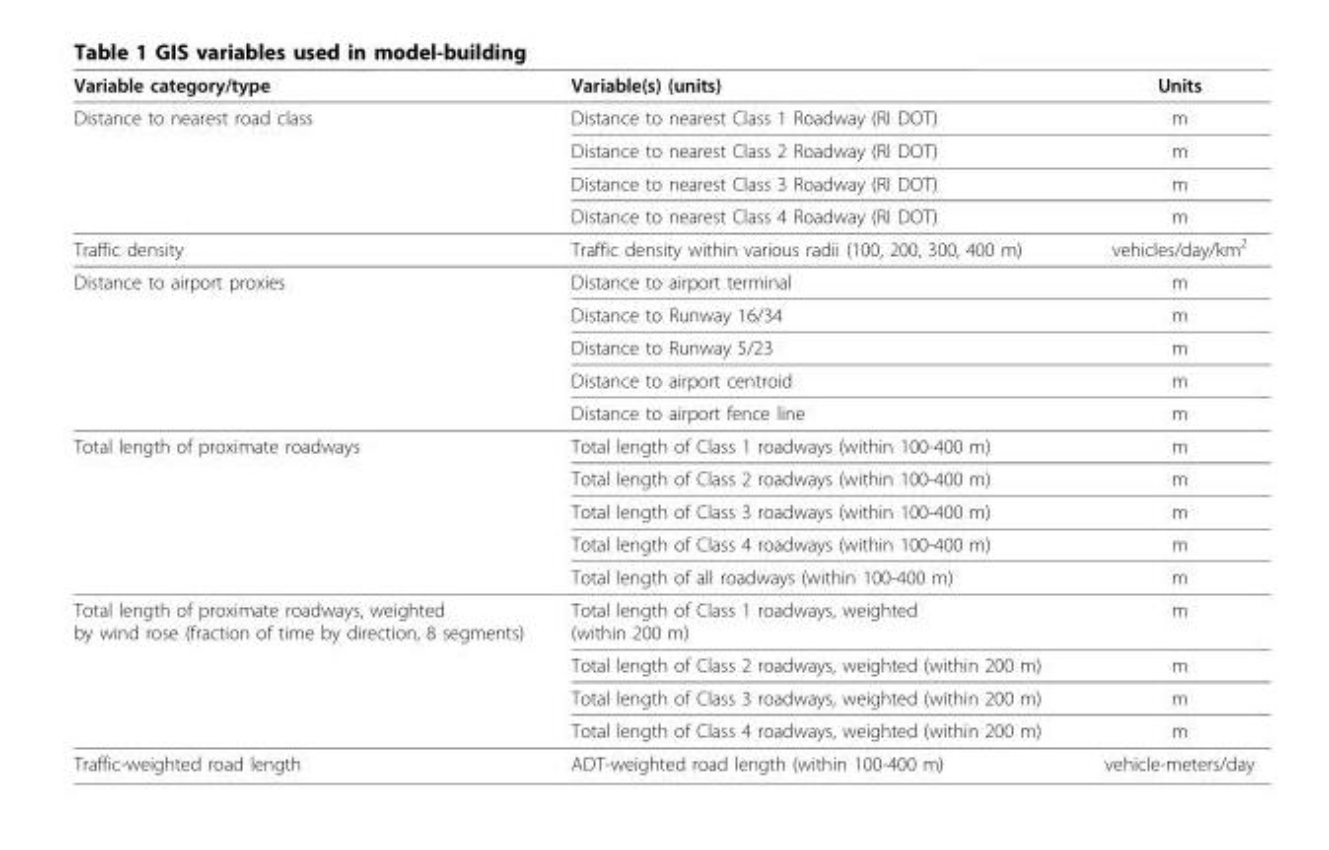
<table><thead><tr><td>Variable category/type</td><td>Variable(s) (units)</td><td>Units</td></tr></thead><tbody><tr><td rowspan="4">Distance to nearest road class</td><td>Distance to nearest Class 1 Roadway (RI DOT)</td><td>m</td></tr><tr><td>Distance to nearest Class 2 Roadway (RI DOT)</td><td>m</td></tr><tr><td>Distance to nearest Class 3 Roadway (RI DOT)</td><td>m</td></tr><tr><td>Distance to nearest Class 4 Roadway (RI DOT)</td><td>m</td></tr><tr><td>Traffic density</td><td>Traffic density within various radii (100, 200, 300, 400 m)</td><td>vehicles/day/km<sup>2</sup></td></tr><tr><td rowspan="5">Distance to airport proxies</td><td>Distance to airport terminal</td><td>m</td></tr><tr><td>Distance to Runway 16/34</td><td>m</td></tr><tr><td>Distance to Runway 5/23</td><td>m</td></tr><tr><td>Distance to airport centroid</td><td>m</td></tr><tr><td>Distance to airport fence line</td><td>m</td></tr><tr><td rowspan="5">Total length of proximate roadways</td><td>Total length of Class 1 roadways (within 100-400 m)</td><td>m</td></tr><tr><td>Total length of Class 2 roadways (within 100-400 m)</td><td>m</td></tr><tr><td>Total length of Class 3 roadways (within 100-400 m)</td><td>m</td></tr><tr><td>Total length of Class 4 roadways (within 100-400 m)</td><td>m</td></tr><tr><td>Total length of all roadways (within 100-400 m)</td><td>m</td></tr><tr><td rowspan="4">Total length of proximate roadways, weighted by wind rose (fraction of time by direction, 8 segments)</td><td>Total length of Class 1 roadways, weighted (within 200 m)</td><td>m</td></tr><tr><td>Total length of Class 2 roadways, weighted (within 200 m)</td><td>m</td></tr><tr><td>Total length of Class 3 roadways, weighted (within 200 m)</td><td>m</td></tr><tr><td>Total length of Class 4 roadways, weighted (within 200 m)</td><td>m</td></tr><tr><td>Traffic-weighted road length</td><td>ADT-weighted road length (within 100-400 m)</td><td>vehicle-meters/day</td></tr></tbody></table>